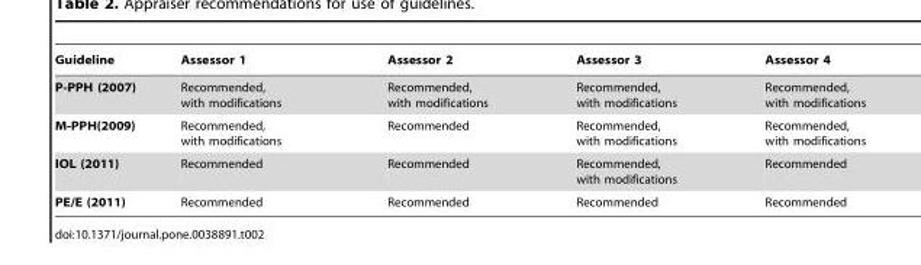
<table><thead><tr><td>Guideline</td><td>Assessor 1</td><td>Assessor 2</td><td>Assessor 3</td><td>Assessor 4</td></tr></thead><tbody><tr><td>P-PPH (2007)</td><td>Recommended, with modifications</td><td>Recommended, with modifications</td><td>Recommended, with modifications</td><td>Recommended, with modifications</td></tr><tr><td>M-PPH(2009)</td><td>Recommended, with modifications</td><td>Recommended</td><td>Recommended, with modifications</td><td>Recommended, with modifications</td></tr><tr><td>IOL (2011)</td><td>Recommended</td><td>Recommended</td><td>Recommended, with modifications</td><td>Recommended</td></tr><tr><td>PE/E (2011)</td><td>Recommended</td><td>Recommended</td><td>Recommended</td><td>Recommended</td></tr></tbody></table>